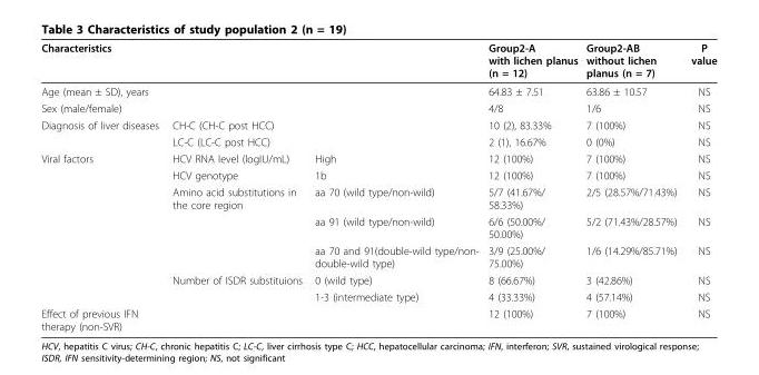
<table><thead><tr><td>Characteristics</td><td></td><td></td><td>Group2-A with lichen planus (n = 12)</td><td>Group2-AB without lichen planus (n = 7)</td><td>P value</td></tr></thead><tbody><tr><td>Age (mean ± SD), years</td><td></td><td></td><td>64.83 ± 7.51</td><td>63.86 ± 10.57</td><td>NS</td></tr><tr><td>Sex (male/female)</td><td></td><td></td><td>4/8</td><td>1/6</td><td>NS</td></tr><tr><td rowspan="2">Diagnosis of liver diseases</td><td>CH-C (CH-C post HCC)</td><td></td><td>10 (2), 83.33%</td><td>7 (100%)</td><td>NS</td></tr><tr><td>LC-C (LC-C post HCC)</td><td></td><td>2 (1), 16.67%</td><td>0 (0%)</td><td>NS</td></tr><tr><td rowspan="7">Viral factors</td><td>HCV RNA level (logIU/mL)</td><td>High</td><td>12 (100%)</td><td>7 (100%)</td><td>NS</td></tr><tr><td>HCV genotype</td><td>1b</td><td>12 (100%)</td><td>7 (100%)</td><td>NS</td></tr><tr><td>Amino acid substitutions in the core region</td><td>aa 70 (wild type/non-wild)</td><td>5/7 (41.67%/ 58.33%)</td><td>2/5 (28.57%/71.43%)</td><td>NS</td></tr><tr><td></td><td>aa 91 (wild type/non-wild)</td><td>6/6 (50.00%/ 50.00%)</td><td>5/2 (71.43%/28.57%)</td><td>NS</td></tr><tr><td></td><td>aa 70 and 91(double-wild type/non- double-wild type)</td><td>3/9 (25.00%/ 75.00%)</td><td>1/6 (14.29%/85.71%)</td><td>NS</td></tr><tr><td>Number of ISDR substituions</td><td>0 (wild type)</td><td>8 (66.67%)</td><td>3 (42.86%)</td><td>NS</td></tr><tr><td></td><td>1-3 (intermediate type)</td><td>4 (33.33%)</td><td>4 (57.14%)</td><td>NS</td></tr><tr><td>Effect of previous IFN therapy (non-SVR)</td><td></td><td></td><td>12 (100%)</td><td>7 (100%)</td><td>NS</td></tr></tbody></table>